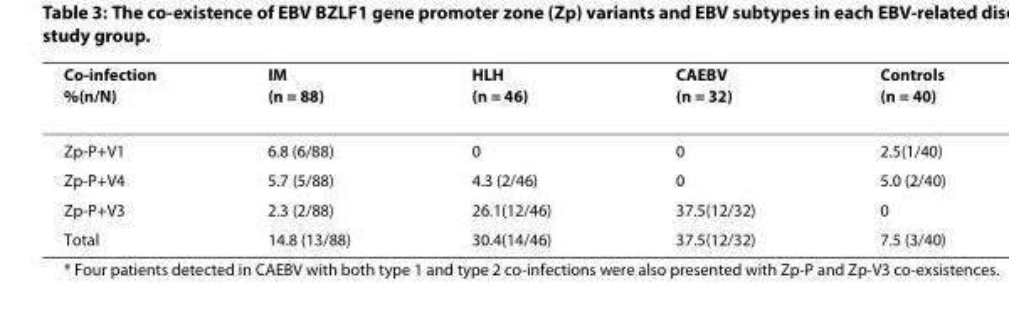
<table><thead><tr><td>Co-infection %(n/N)</td><td>IM (n = 88)</td><td>HLH (n = 46)</td><td>CAEBV (n = 32)</td><td>Controls (n = 40)</td></tr></thead><tbody><tr><td>Zp-P+V1</td><td>6.8 (6/88)</td><td>0</td><td>0</td><td>2.5(1/40)</td></tr><tr><td>Zp-P+V4</td><td>5.7 (5/88)</td><td>4.3 (2/46)</td><td>0</td><td>5.0 (2/40)</td></tr><tr><td>Zp-P+V3</td><td>2.3 (2/88)</td><td>26.1(12/46)</td><td>37.5(12/32)</td><td>0</td></tr><tr><td>Total</td><td>14.8 (13/88)</td><td>30.4(14/46)</td><td>37.5(12/32)</td><td>7.5 (3/40)</td></tr></tbody></table>